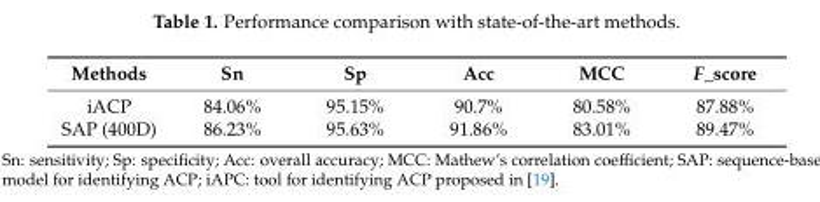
<table><thead><tr><td>Methods</td><td>Sn</td><td>Sp</td><td>Acc</td><td>MCC</td><td>F_score</td></tr></thead><tbody><tr><td>iACP</td><td>84.06%</td><td>95.15%</td><td>90.7%</td><td>80.58%</td><td>87.88%</td></tr><tr><td>SAP (400D)</td><td>86.23%</td><td>95.63%</td><td>91.86%</td><td>83.01%</td><td>89.47%</td></tr></tbody></table>